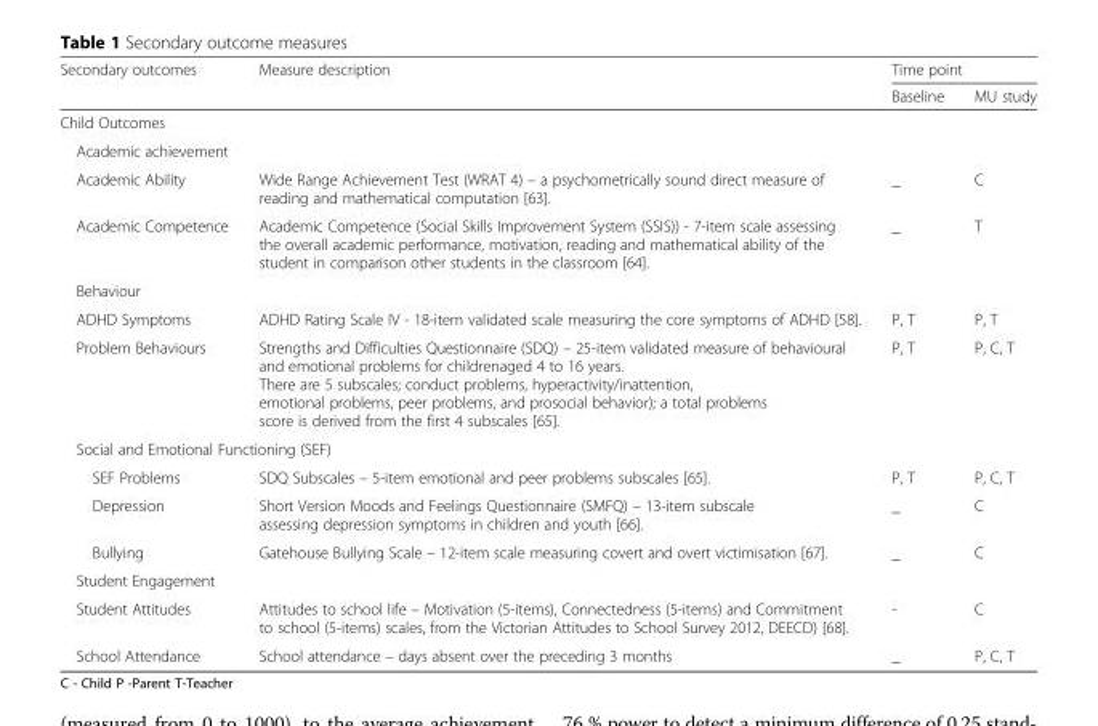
<table><thead><tr><td rowspan="2">Secondary outcomes</td><td rowspan="2">Measure description</td><td colspan="2">Time point</td></tr><tr><td>Baseline</td><td>MU study</td></tr></thead><tbody><tr><td colspan="4">Child Outcomes</td></tr><tr><td colspan="4">Academic achievement</td></tr><tr><td>Academic Ability</td><td>Wide Range Achievement Test (WRAT 4) – a psychometrically sound direct measure of reading and mathematical computation [63].</td><td>_</td><td>C</td></tr><tr><td>Academic Competence</td><td>Academic Competence (Social Skills Improvement System (SSIS)) - 7-item scale assessing the overall academic performance, motivation, reading and mathematical ability of the student in comparison other students in the classroom [64].</td><td>_</td><td>T</td></tr><tr><td colspan="4">Behaviour</td></tr><tr><td>ADHD Symptoms</td><td>ADHD Rating Scale IV - 18-item validated scale measuring the core symptoms of ADHD [58].</td><td>P, T</td><td>P, T</td></tr><tr><td>Problem Behaviours</td><td>Strengths and Difficulties Questionnaire (SDQ) – 25-item validated measure of behavioural and emotional problems for childrenaged 4 to 16 years. There are 5 subscales; conduct problems, hyperactivity/inattention, emotional problems, peer problems, and prosocial behavior); a total problems score is derived from the first 4 subscales [65].</td><td>P, T</td><td>P, C, T</td></tr><tr><td colspan="4">Social and Emotional Functioning (SEF)</td></tr><tr><td>SEF Problems</td><td>SDQ Subscales – 5-item emotional and peer problems subscales [65].</td><td>P, T</td><td>P, C, T</td></tr><tr><td>Depression</td><td>Short Version Moods and Feelings Questionnaire (SMFQ) – 13-item subscale assessing depression symptoms in children and youth [66].</td><td>_</td><td>C</td></tr><tr><td>Bullying</td><td>Gatehouse Bullying Scale – 12-item scale measuring covert and overt victimisation [67].</td><td>_</td><td>C</td></tr><tr><td colspan="4">Student Engagement</td></tr><tr><td>Student Attitudes</td><td>Attitudes to school life – Motivation (5-items), Connectedness (5-items) and Commitment to school (5-items) scales, from the Victorian Attitudes to School Survey 2012, DEECD) [68].</td><td>-</td><td>C</td></tr><tr><td>School Attendance</td><td>School attendance – days absent over the preceding 3 months</td><td>_</td><td>P, C, T</td></tr></tbody></table>